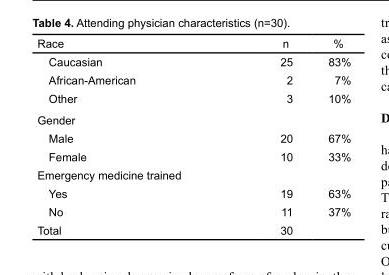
<table><thead><tr><td>Race</td><td>n</td><td>%</td></tr></thead><tbody><tr><td>Caucasian</td><td>25</td><td>83%</td></tr><tr><td>African-American</td><td>2</td><td>7%</td></tr><tr><td>Other</td><td>3</td><td>10%</td></tr><tr><td colspan="3">Gender</td></tr><tr><td>Male</td><td>20</td><td>67%</td></tr><tr><td>Female</td><td>10</td><td>33%</td></tr><tr><td colspan="3">Emergency medicine trained</td></tr><tr><td>Yes</td><td>19</td><td>63%</td></tr><tr><td>No</td><td>11</td><td>37%</td></tr><tr><td>Total</td><td>30</td><td></td></tr></tbody></table>